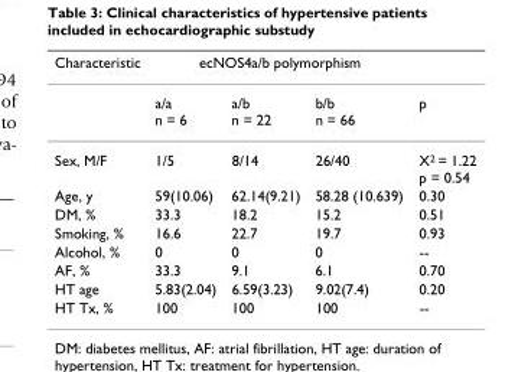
<table><thead><tr><td rowspan="2">Characteristic</td><td colspan="3">ecNOS4a/b polymorphism</td><td rowspan="2">p</td></tr><tr><td>a/a n = 6</td><td>a/b n = 22</td><td>b/b n = 66</td></tr></thead><tbody><tr><td>Sex, M/F</td><td>1/5</td><td>8/14</td><td>26/40</td><td>X<sup>2</sup> = 1.22 p = 0.54</td></tr><tr><td>Age, y</td><td>59(10.06)</td><td>62.14(9.21)</td><td>58.28 (10.639)</td><td>0.30</td></tr><tr><td>DM, %</td><td>33.3</td><td>18.2</td><td>15.2</td><td>0.51</td></tr><tr><td>Smoking, %</td><td>16.6</td><td>22.7</td><td>19.7</td><td>0.93</td></tr><tr><td>Alcohol, %</td><td>0</td><td>0</td><td>0</td><td>--</td></tr><tr><td>AF, %</td><td>33.3</td><td>9.1</td><td>6.1</td><td>0.70</td></tr><tr><td>HT age</td><td>5.83(2.04)</td><td>6.59(3.23)</td><td>9.02(7.4)</td><td>0.20</td></tr><tr><td>HT Tx, %</td><td>100</td><td>100</td><td>100</td><td>--</td></tr></tbody></table>